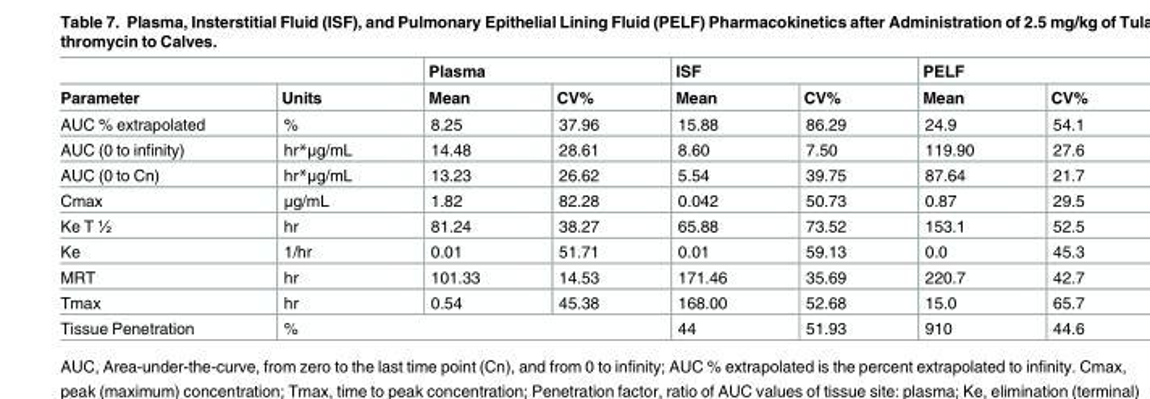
<table><thead><tr><td rowspan="2">Parameter</td><td rowspan="2">Units</td><td colspan="2">Plasma</td><td colspan="2">ISF</td><td colspan="2">PELF</td></tr><tr><td>Mean</td><td>CV%</td><td>Mean</td><td>CV%</td><td>Mean</td><td>CV%</td></tr></thead><tbody><tr><td>AUC % extrapolated</td><td>%</td><td>8.25</td><td>37.96</td><td>15.88</td><td>86.29</td><td>24.9</td><td>54.1</td></tr><tr><td>AUC (0 to infinity)</td><td>hr*μg/mL</td><td>14.48</td><td>28.61</td><td>8.60</td><td>7.50</td><td>119.90</td><td>27.6</td></tr><tr><td>AUC (0 to Cn)</td><td>hr*μg/mL</td><td>13.23</td><td>26.62</td><td>5.54</td><td>39.75</td><td>87.64</td><td>21.7</td></tr><tr><td>Cmax</td><td>μg/mL</td><td>1.82</td><td>82.28</td><td>0.042</td><td>50.73</td><td>0.87</td><td>29.5</td></tr><tr><td>Ke T ½</td><td>hr</td><td>81.24</td><td>38.27</td><td>65.88</td><td>73.52</td><td>153.1</td><td>52.5</td></tr><tr><td>Ke</td><td>1/hr</td><td>0.01</td><td>51.71</td><td>0.01</td><td>59.13</td><td>0.0</td><td>45.3</td></tr><tr><td>MRT</td><td>hr</td><td>101.33</td><td>14.53</td><td>171.46</td><td>35.69</td><td>220.7</td><td>42.7</td></tr><tr><td>Tmax</td><td>hr</td><td>0.54</td><td>45.38</td><td>168.00</td><td>52.68</td><td>15.0</td><td>65.7</td></tr><tr><td>Tissue Penetration</td><td colspan="3">%</td><td>44</td><td>51.93</td><td>910</td><td>44.6</td></tr></tbody></table>